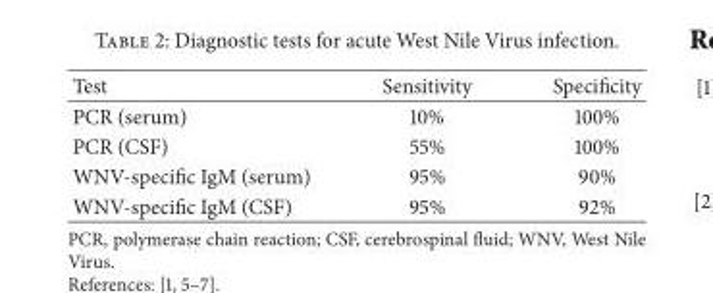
<table><thead><tr><td>Test</td><td>Sensitivity</td><td>Specificity</td></tr></thead><tbody><tr><td>PCR (serum)</td><td>10%</td><td>100%</td></tr><tr><td>PCR (CSF)</td><td>55%</td><td>100%</td></tr><tr><td>WNV-specific IgM (serum)</td><td>95%</td><td>90%</td></tr><tr><td>WNV-specific IgM (CSF)</td><td>95%</td><td>92%</td></tr></tbody></table>